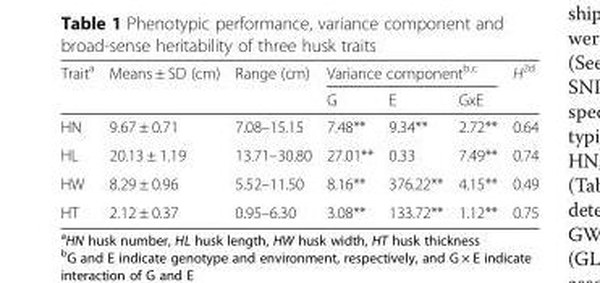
<table><thead><tr><td rowspan="2">Trait<sup>a</sup></td><td rowspan="2">Means ± SD (cm)</td><td rowspan="2">Range (cm)</td><td colspan="3">Variance component<sup>b,c</sup></td><td rowspan="2">H<sup>2d</sup></td></tr><tr><td>G</td><td>E</td><td>GxE</td></tr></thead><tbody><tr><td>HN</td><td>9.67 ± 0.71</td><td>7.08–15.15</td><td>7.48**</td><td>9.34**</td><td>2.72**</td><td>0.64</td></tr><tr><td>HL</td><td>20.13 ± 1.19</td><td>13.71–30.80</td><td>27.01**</td><td>0.33</td><td>7.49**</td><td>0.74</td></tr><tr><td>HW</td><td>8.29 ± 0.96</td><td>5.52–11.50</td><td>8.16**</td><td>376.22**</td><td>4.15**</td><td>0.49</td></tr><tr><td>HT</td><td>2.12 ± 0.37</td><td>0.95–6.30</td><td>3.08**</td><td>133.72**</td><td>1.12**</td><td>0.75</td></tr></tbody></table>